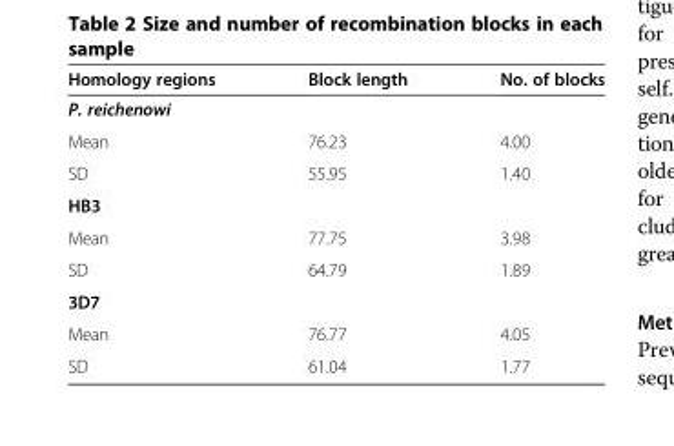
<table><thead><tr><td>Homology regions</td><td>Block length</td><td>No. of blocks</td></tr></thead><tbody><tr><td colspan="3">P. reichenowi</td></tr><tr><td>Mean</td><td>76.23</td><td>4.00</td></tr><tr><td>SD</td><td>55.95</td><td>1.40</td></tr><tr><td colspan="3">HB3</td></tr><tr><td>Mean</td><td>77.75</td><td>3.98</td></tr><tr><td>SD</td><td>64.79</td><td>1.89</td></tr><tr><td colspan="3">3D7</td></tr><tr><td>Mean</td><td>76.77</td><td>4.05</td></tr><tr><td>SD</td><td>61.04</td><td>1.77</td></tr></tbody></table>